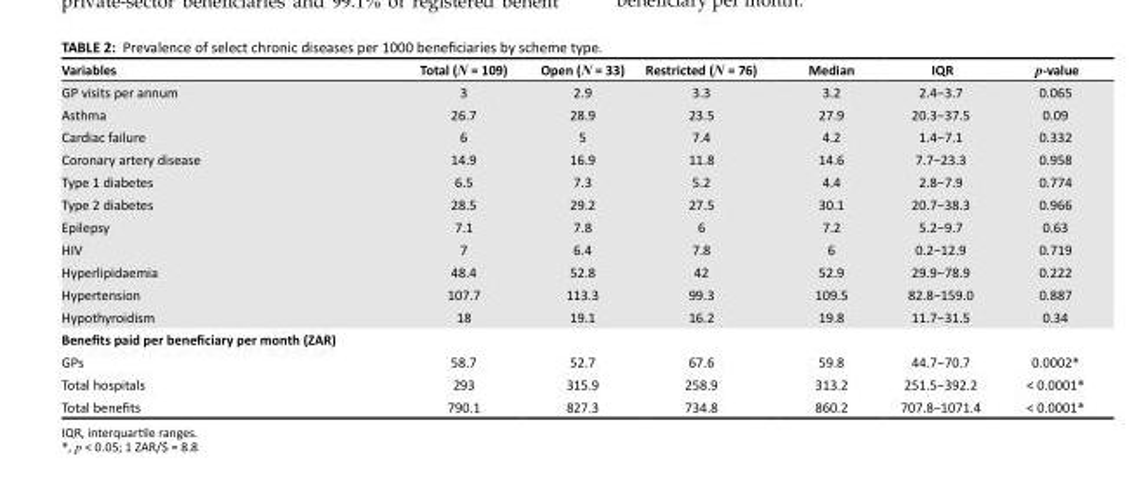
<table><thead><tr><td>Variables</td><td>Total (N = 109)</td><td>Open (N = 33)</td><td>Restricted (N = 76)</td><td>Median</td><td>IQR</td><td>p-value</td></tr></thead><tbody><tr><td>GP visits per annum</td><td>3</td><td>2.9</td><td>3.3</td><td>3.2</td><td>2.4−3.7</td><td>0.065</td></tr><tr><td>Asthma</td><td>26.7</td><td>28.9</td><td>23.5</td><td>27.9</td><td>20.3−37.5</td><td>0.09</td></tr><tr><td>Cardiac failure</td><td>6</td><td>5</td><td>7.4</td><td>4.2</td><td>1.4−7.1</td><td>0.332</td></tr><tr><td>Coronary artery disease</td><td>14.9</td><td>16.9</td><td>11.8</td><td>14.6</td><td>7.7−23.3</td><td>0.958</td></tr><tr><td>Type 1 diabetes</td><td>6.5</td><td>7.3</td><td>5.2</td><td>4.4</td><td>2.8−7.9</td><td>0.774</td></tr><tr><td>Type 2 diabetes</td><td>28.5</td><td>29.2</td><td>27.5</td><td>30.1</td><td>20.7−38.3</td><td>0.966</td></tr><tr><td>Epilepsy</td><td>7.1</td><td>7.8</td><td>6</td><td>7.2</td><td>5.2−9.7</td><td>0.63</td></tr><tr><td>HIV</td><td>7</td><td>6.4</td><td>7.8</td><td>6</td><td>0.2−12.9</td><td>0.719</td></tr><tr><td>Hyperlipidaemia</td><td>48.4</td><td>52.8</td><td>42</td><td>52.9</td><td>29.9−78.9</td><td>0.222</td></tr><tr><td>Hypertension</td><td>107.7</td><td>113.3</td><td>99.3</td><td>109.5</td><td>82.8−159.0</td><td>0.887</td></tr><tr><td>Hypothyroidism</td><td>18</td><td>19.1</td><td>16.2</td><td>19.8</td><td>11.7−31.5</td><td>0.34</td></tr><tr><td colspan="7">Benefits paid per beneficiary per month (ZAR)</td></tr><tr><td>GPs</td><td>58.7</td><td>52.7</td><td>67.6</td><td>59.8</td><td>44.7−70.7</td><td>0.0002*</td></tr><tr><td>Total hospitals</td><td>293</td><td>315.9</td><td>258.9</td><td>313.2</td><td>251.5−392.2</td><td>&lt; 0.0001*</td></tr><tr><td>Total benefits</td><td>790.1</td><td>827.3</td><td>734.8</td><td>860.2</td><td>707.8−1071.4</td><td>&lt; 0.0001*</td></tr></tbody></table>